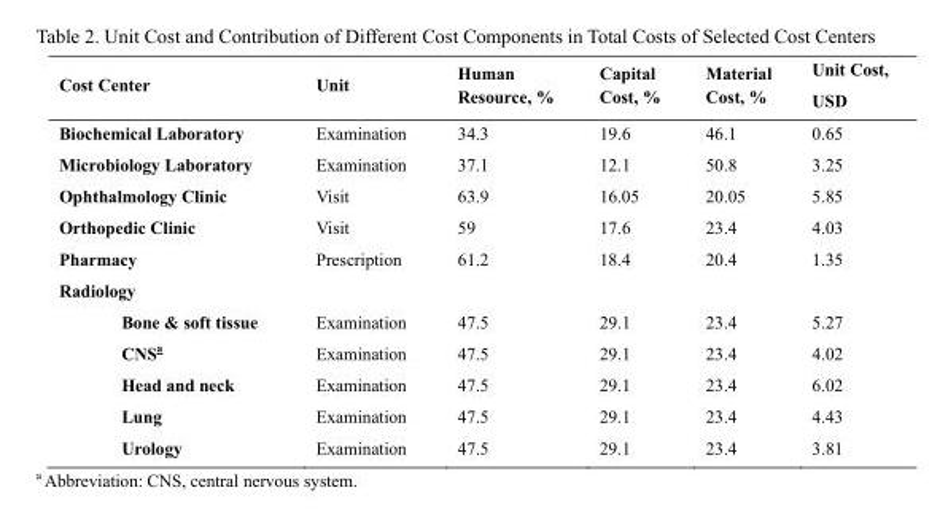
<table><thead><tr><td>Cost Center</td><td>Unit</td><td>Human Resource, %</td><td>Capital Cost, %</td><td>Material Cost, %</td><td>Unit Cost, USD</td></tr></thead><tbody><tr><td>Biochemical Laboratory</td><td>Examination</td><td>34.3</td><td>19.6</td><td>46.1</td><td>0.65</td></tr><tr><td>Microbiology Laboratory</td><td>Examination</td><td>37.1</td><td>12.1</td><td>50.8</td><td>3.25</td></tr><tr><td>Ophthalmology Clinic</td><td>Visit</td><td>63.9</td><td>16.05</td><td>20.05</td><td>5.85</td></tr><tr><td>Orthopedic Clinic</td><td>Visit</td><td>59</td><td>17.6</td><td>23.4</td><td>4.03</td></tr><tr><td>Pharmacy</td><td>Prescription</td><td>61.2</td><td>18.4</td><td>20.4</td><td>1.35</td></tr><tr><td colspan="6">Radiology</td></tr><tr><td>Bone &amp; soft tissue</td><td>Examination</td><td>47.5</td><td>29.1</td><td>23.4</td><td>5.27</td></tr><tr><td>CNS<sup>a</sup></td><td>Examination</td><td>47.5</td><td>29.1</td><td>23.4</td><td>4.02</td></tr><tr><td>Head and neck</td><td>Examination</td><td>47.5</td><td>29.1</td><td>23.4</td><td>6.02</td></tr><tr><td>Lung</td><td>Examination</td><td>47.5</td><td>29.1</td><td>23.4</td><td>4.43</td></tr><tr><td>Urology</td><td>Examination</td><td>47.5</td><td>29.1</td><td>23.4</td><td>3.81</td></tr></tbody></table>